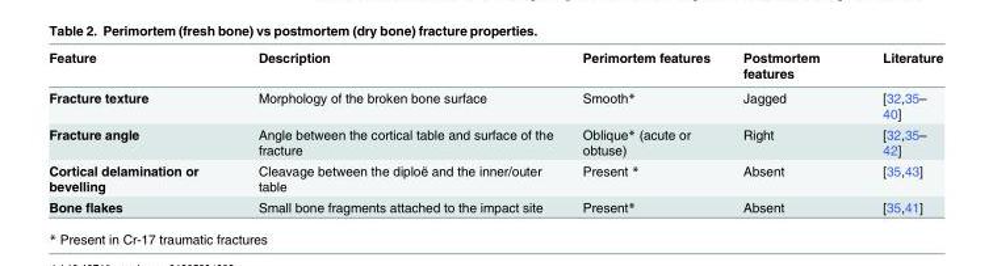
<table><thead><tr><td>Feature</td><td>Description</td><td>Perimortem features</td><td>Postmortem features</td><td>Literature</td></tr></thead><tbody><tr><td>Fracture texture</td><td>Morphology of the broken bone surface</td><td>Smooth*</td><td>Jagged</td><td>[32,35– 40]</td></tr><tr><td>Fracture angle</td><td>Angle between the cortical table and surface of the fracture</td><td>Oblique* (acute or obtuse)</td><td>Right</td><td>[32,35– 42]</td></tr><tr><td>Cortical delamination or bevelling</td><td>Cleavage between the diploë and the inner/outer table</td><td>Present *</td><td>Absent</td><td>[35,43]</td></tr><tr><td>Bone flakes</td><td>Small bone fragments attached to the impact site</td><td>Present*</td><td>Absent</td><td>[35,41]</td></tr></tbody></table>